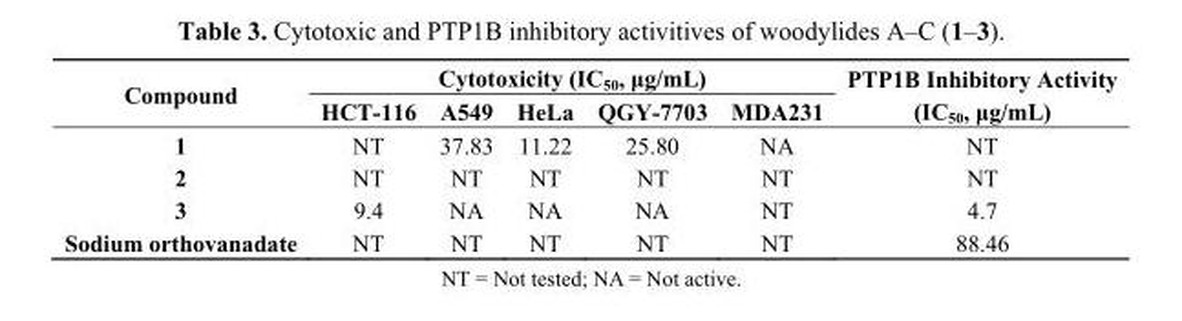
<table><thead><tr><td rowspan="2">Compound</td><td colspan="5">Cytotoxicity (IC<sub>50</sub>, μg/mL)</td><td rowspan="2">PTP1B Inhibitory Activity (IC<sub>50</sub>, μg/mL)</td></tr><tr><td>HCT-116</td><td>A549</td><td>HeLa</td><td>QGY-7703</td><td>MDA231</td></tr></thead><tbody><tr><td>1</td><td>NT</td><td>37.83</td><td>11.22</td><td>25.80</td><td>NA</td><td>NT</td></tr><tr><td>2</td><td>NT</td><td>NT</td><td>NT</td><td>NT</td><td>NT</td><td>NT</td></tr><tr><td>3</td><td>9.4</td><td>NA</td><td>NA</td><td>NA</td><td>NT</td><td>4.7</td></tr><tr><td>Sodium orthovanadate</td><td>NT</td><td>NT</td><td>NT</td><td>NT</td><td>NT</td><td>88.46</td></tr></tbody></table>